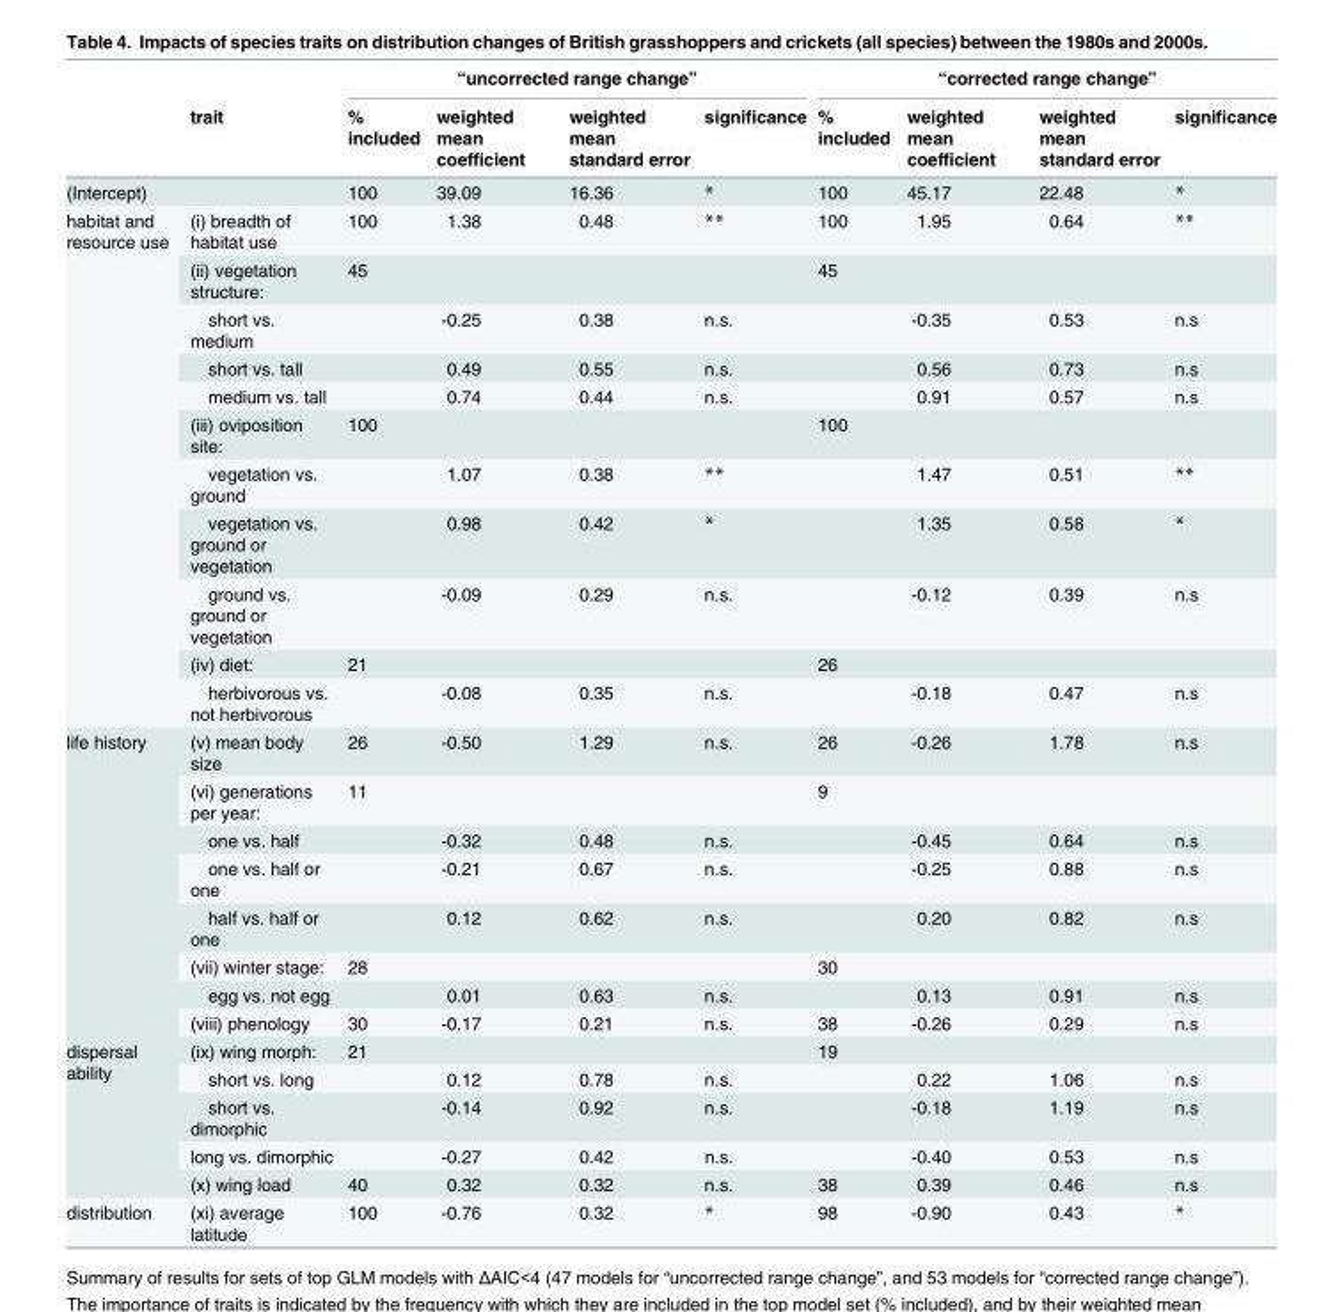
<table><thead><tr><td rowspan="2"></td><td rowspan="2">trait</td><td colspan="4">“uncorrected range change”</td><td colspan="4">“corrected range change”</td></tr><tr><td>% included</td><td>weighted mean coefficient</td><td>weighted mean standard error</td><td>significance</td><td>% included</td><td>weighted mean coefficient</td><td>weighted mean standard error</td><td>significance</td></tr></thead><tbody><tr><td>(Intercept)</td><td></td><td>100</td><td>39.09</td><td>16.36</td><td>*</td><td>100</td><td>45.17</td><td>22.48</td><td>*</td></tr><tr><td rowspan="11">habitat and resource use</td><td>(i) breadth of habitat use</td><td>100</td><td>1.38</td><td>0.48</td><td>**</td><td>100</td><td>1.95</td><td>0.64</td><td>**</td></tr><tr><td>(ii) vegetation structure:</td><td>45</td><td></td><td></td><td></td><td>45</td><td></td><td></td><td></td></tr><tr><td>short vs. medium</td><td></td><td>-0.25</td><td>0.38</td><td>n.s.</td><td></td><td>-0.35</td><td>0.53</td><td>n.s</td></tr><tr><td>short vs. tall</td><td></td><td>0.49</td><td>0.55</td><td>n.s.</td><td></td><td>0.56</td><td>0.73</td><td>n.s</td></tr><tr><td>medium vs. tall</td><td></td><td>0.74</td><td>0.44</td><td>n.s.</td><td></td><td>0.91</td><td>0.57</td><td>n.s</td></tr><tr><td>(iii) oviposition site:</td><td>100</td><td></td><td></td><td></td><td>100</td><td></td><td></td><td></td></tr><tr><td>vegetation vs. ground</td><td></td><td>1.07</td><td>0.38</td><td>**</td><td></td><td>1.47</td><td>0.51</td><td>**</td></tr><tr><td>vegetation vs. ground or vegetation</td><td></td><td>0.98</td><td>0.42</td><td>*</td><td></td><td>1.35</td><td>0.58</td><td>*</td></tr><tr><td>ground vs. ground or vegetation</td><td></td><td>-0.09</td><td>0.29</td><td>n.s.</td><td></td><td>-0.12</td><td>0.39</td><td>n.s</td></tr><tr><td>(iv) diet:</td><td>21</td><td></td><td></td><td></td><td>26</td><td></td><td></td><td></td></tr><tr><td>herbivorous vs. not herbivorous</td><td></td><td>-0.08</td><td>0.35</td><td>n.s.</td><td></td><td>-0.18</td><td>0.47</td><td>n.s</td></tr><tr><td rowspan="8">life history</td><td>(v) mean body size</td><td>26</td><td>-0.50</td><td>1.29</td><td>n.s.</td><td>26</td><td>-0.26</td><td>1.78</td><td>n.s</td></tr><tr><td>(vi) generations per year:</td><td>11</td><td></td><td></td><td></td><td>9</td><td></td><td></td><td></td></tr><tr><td>one vs. half</td><td></td><td>-0.32</td><td>0.48</td><td>n.s.</td><td></td><td>-0.45</td><td>0.64</td><td>n.s</td></tr><tr><td>one vs. half or one</td><td></td><td>-0.21</td><td>0.67</td><td>n.s.</td><td></td><td>-0.25</td><td>0.88</td><td>n.s</td></tr><tr><td>half vs. half or one</td><td></td><td>0.12</td><td>0.62</td><td>n.s.</td><td></td><td>0.20</td><td>0.82</td><td>n.s</td></tr><tr><td>(vii) winter stage:</td><td>28</td><td></td><td></td><td></td><td>30</td><td></td><td></td><td></td></tr><tr><td>egg vs. not egg</td><td></td><td>0.01</td><td>0.63</td><td>n.s.</td><td></td><td>0.13</td><td>0.91</td><td>n.s</td></tr><tr><td>(viii) phenology</td><td>30</td><td>-0.17</td><td>0.21</td><td>n.s.</td><td>38</td><td>-0.26</td><td>0.29</td><td>n.s</td></tr><tr><td rowspan="5">dispersal ability</td><td>(ix) wing morph:</td><td>21</td><td></td><td></td><td></td><td>19</td><td></td><td></td><td></td></tr><tr><td>short vs. long</td><td></td><td>0.12</td><td>0.78</td><td>n.s.</td><td></td><td>0.22</td><td>1.06</td><td>n.s</td></tr><tr><td>short vs. dimorphic</td><td></td><td>-0.14</td><td>0.92</td><td>n.s.</td><td></td><td>-0.18</td><td>1.19</td><td>n.s</td></tr><tr><td>long vs. dimorphic</td><td></td><td>-0.27</td><td>0.42</td><td>n.s.</td><td></td><td>-0.40</td><td>0.53</td><td>n.s</td></tr><tr><td>(x) wing load</td><td>40</td><td>0.32</td><td>0.32</td><td>n.s.</td><td>38</td><td>0.39</td><td>0.46</td><td>n.s</td></tr><tr><td>distribution</td><td>(xi) average latitude</td><td>100</td><td>-0.76</td><td>0.32</td><td>*</td><td>98</td><td>-0.90</td><td>0.43</td><td>*</td></tr></tbody></table>